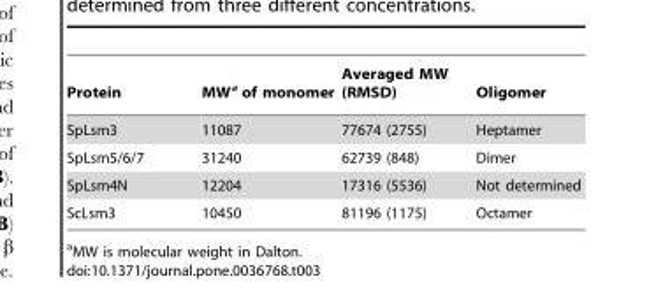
<table><thead><tr><td>Protein</td><td>MW<sup>a</sup> of monomer</td><td>Averaged MW (RMSD)</td><td>Oligomer</td></tr></thead><tbody><tr><td>SpLsm3</td><td>11087</td><td>77674 (2755)</td><td>Heptamer</td></tr><tr><td>SpLsm5/6/7</td><td>31240</td><td>62739 (848)</td><td>Dimer</td></tr><tr><td>SpLsm4N</td><td>12204</td><td>17316 (5536)</td><td>Not determined</td></tr><tr><td>ScLsm3</td><td>10450</td><td>81196 (1175)</td><td>Octamer</td></tr></tbody></table>